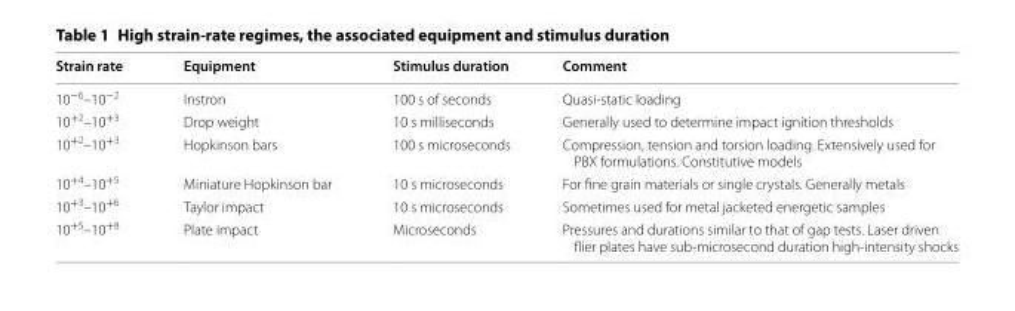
<table><thead><tr><td>Strain rate</td><td>Equipment</td><td>Stimulus duration</td><td>Comment</td></tr></thead><tbody><tr><td>10<sup>−6</sup>–10<sup>−2</sup></td><td>Instron</td><td>100 s of seconds</td><td>Quasi-static loading</td></tr><tr><td>10<sup>+2</sup>–10<sup>+3</sup></td><td>Drop weight</td><td>10 s milliseconds</td><td>Generally used to determine impact ignition thresholds</td></tr><tr><td>10<sup>+2</sup>–10<sup>+3</sup></td><td>Hopkinson bars</td><td>100 s microseconds</td><td>Compression, tension and torsion loading. Extensively used for PBX formulations. Constitutive models</td></tr><tr><td>10<sup>+4</sup>–10<sup>+5</sup></td><td>Miniature Hopkinson bar</td><td>10 s microseconds</td><td>For fine grain materials or single crystals. Generally metals</td></tr><tr><td>10<sup>+3</sup>–10<sup>+6</sup></td><td>Taylor impact</td><td>10 s microseconds</td><td>Sometimes used for metal jacketed energetic samples</td></tr><tr><td>10<sup>+5</sup>–10<sup>+8</sup></td><td>Plate impact</td><td>Microseconds</td><td>Pressures and durations similar to that of gap tests. Laser driven flier plates have sub-microsecond duration high-intensity shocks</td></tr></tbody></table>